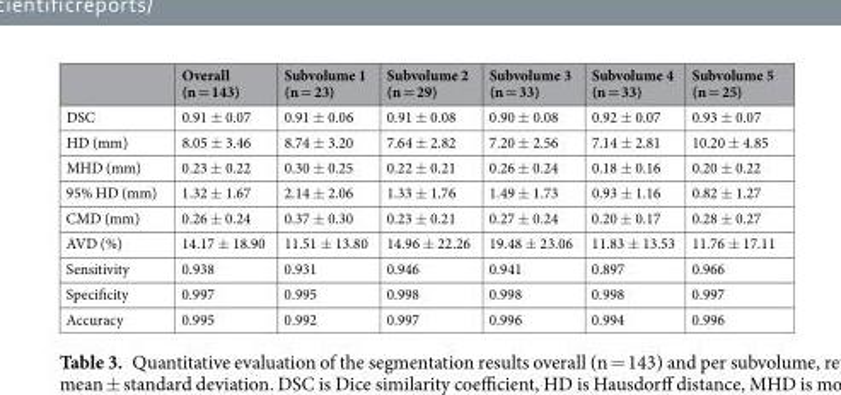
<table><thead><tr><td></td><td>Overall (n = 143)</td><td>Subvolume 1 (n = 23)</td><td>Subvolume 2 (n = 29)</td><td>Subvolume 3 (n = 33)</td><td>Subvolume 4 (n = 33)</td><td>Subvolume 5 (n = 25)</td></tr></thead><tbody><tr><td>DSC</td><td>0.91 ± 0.07</td><td>0.91 ± 0.06</td><td>0.91 ± 0.08</td><td>0.90 ± 0.08</td><td>0.92 ± 0.07</td><td>0.93 ± 0.07</td></tr><tr><td>HD (mm)</td><td>8.05 ± 3.46</td><td>8.74 ± 3.20</td><td>7.64 ± 2.82</td><td>7.20 ± 2.56</td><td>7.14 ± 2.81</td><td>10.20 ± 4.85</td></tr><tr><td>MHD (mm)</td><td>0.23 ± 0.22</td><td>0.30 ± 0.25</td><td>0.22 ± 0.21</td><td>0.26 ± 0.24</td><td>0.18 ± 0.16</td><td>0.20 ± 0.22</td></tr><tr><td>95% HD (mm)</td><td>1.32 ± 1.67</td><td>2.14 ± 2.06</td><td>1.33 ± 1.76</td><td>1.49 ± 1.73</td><td>0.93 ± 1.16</td><td>0.82 ± 1.27</td></tr><tr><td>CMD (mm)</td><td>0.26 ± 0.24</td><td>0.37 ± 0.30</td><td>0.23 ± 0.21</td><td>0.27 ± 0.24</td><td>0.20 ± 0.17</td><td>0.28 ± 0.27</td></tr><tr><td>AVD (%)</td><td>14.17 ± 18.90</td><td>11.51 ± 13.80</td><td>14.96 ± 22.26</td><td>19.48 ± 23.06</td><td>11.83 ± 13.53</td><td>11.76 ± 17.11</td></tr><tr><td>Sensitivity</td><td>0.938</td><td>0.931</td><td>0.946</td><td>0.941</td><td>0.897</td><td>0.966</td></tr><tr><td>Specificity</td><td>0.997</td><td>0.995</td><td>0.998</td><td>0.998</td><td>0.998</td><td>0.997</td></tr><tr><td>Accuracy</td><td>0.995</td><td>0.992</td><td>0.997</td><td>0.996</td><td>0.994</td><td>0.996</td></tr></tbody></table>